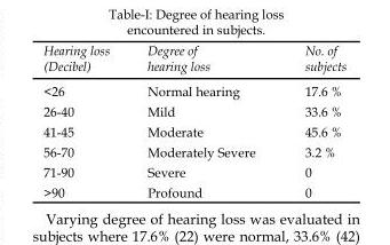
<table><thead><tr><td>Hearing loss (Decibel)</td><td>Degree of hearing loss</td><td>No. of subjects</td></tr></thead><tbody><tr><td>&lt;26</td><td>Normal hearing</td><td>17.6 %</td></tr><tr><td>26-40</td><td>Mild</td><td>33.6 %</td></tr><tr><td>41-45</td><td>Moderate</td><td>45.6 %</td></tr><tr><td>56-70</td><td>Moderately Severe</td><td>3.2 %</td></tr><tr><td>71-90</td><td>Severe</td><td>0</td></tr><tr><td>&gt;90</td><td>Profound</td><td>0</td></tr></tbody></table>